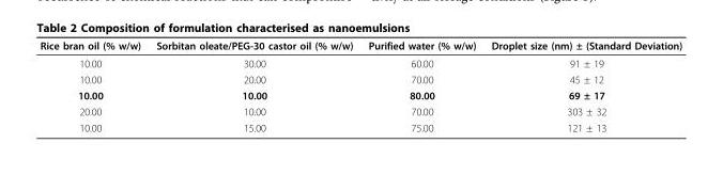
<table><thead><tr><td>Rice bran oil (% w/w)</td><td>Sorbitan oleate/PEG-30 castor oil (% w/w)</td><td>Purified water (% w/w)</td><td>Droplet size (nm) ± (Standard Deviation)</td></tr></thead><tbody><tr><td>10.00</td><td>30.00</td><td>60.00</td><td>91 ± 19</td></tr><tr><td>10.00</td><td>20.00</td><td>70.00</td><td>45 ± 12</td></tr><tr><td>10.00</td><td>10.00</td><td>80.00</td><td>69 ± 17</td></tr><tr><td>20.00</td><td>10.00</td><td>70.00</td><td>303 ± 32</td></tr><tr><td>10.00</td><td>15.00</td><td>75.00</td><td>121 ± 13</td></tr></tbody></table>